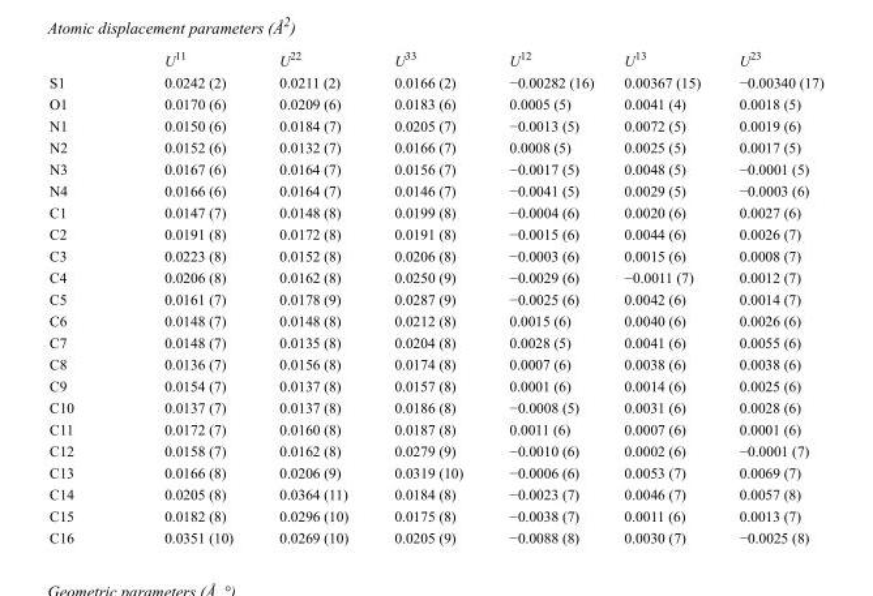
<table><thead><tr><td></td><td>U<sup>11</sup></td><td>U<sup>22</sup></td><td>U<sup>33</sup></td><td>U<sup>12</sup></td><td>U<sup>13</sup></td><td>U<sup>23</sup></td></tr></thead><tbody><tr><td>S1</td><td>0.0242 (2)</td><td>0.0211 (2)</td><td>0.0166 (2)</td><td>−0.00282 (16)</td><td>0.00367 (15)</td><td>−0.00340 (17)</td></tr><tr><td>O1</td><td>0.0170 (6)</td><td>0.0209 (6)</td><td>0.0183 (6)</td><td>0.0005 (5)</td><td>0.0041 (4)</td><td>0.0018 (5)</td></tr><tr><td>N1</td><td>0.0150 (6)</td><td>0.0184 (7)</td><td>0.0205 (7)</td><td>−0.0013 (5)</td><td>0.0072 (5)</td><td>0.0019 (6)</td></tr><tr><td>N2</td><td>0.0152 (6)</td><td>0.0132 (7)</td><td>0.0166 (7)</td><td>0.0008 (5)</td><td>0.0025 (5)</td><td>0.0017 (5)</td></tr><tr><td>N3</td><td>0.0167 (6)</td><td>0.0164 (7)</td><td>0.0156 (7)</td><td>−0.0017 (5)</td><td>0.0048 (5)</td><td>−0.0001 (5)</td></tr><tr><td>N4</td><td>0.0166 (6)</td><td>0.0164 (7)</td><td>0.0146 (7)</td><td>−0.0041 (5)</td><td>0.0029 (5)</td><td>−0.0003 (6)</td></tr><tr><td>C1</td><td>0.0147 (7)</td><td>0.0148 (8)</td><td>0.0199 (8)</td><td>−0.0004 (6)</td><td>0.0020 (6)</td><td>0.0027 (6)</td></tr><tr><td>C2</td><td>0.0191 (8)</td><td>0.0172 (8)</td><td>0.0191 (8)</td><td>−0.0015 (6)</td><td>0.0044 (6)</td><td>0.0026 (7)</td></tr><tr><td>C3</td><td>0.0223 (8)</td><td>0.0152 (8)</td><td>0.0206 (8)</td><td>−0.0003 (6)</td><td>0.0015 (6)</td><td>0.0008 (7)</td></tr><tr><td>C4</td><td>0.0206 (8)</td><td>0.0162 (8)</td><td>0.0250 (9)</td><td>−0.0029 (6)</td><td>−0.0011 (7)</td><td>0.0012 (7)</td></tr><tr><td>C5</td><td>0.0161 (7)</td><td>0.0178 (9)</td><td>0.0287 (9)</td><td>−0.0025 (6)</td><td>0.0042 (6)</td><td>0.0014 (7)</td></tr><tr><td>C6</td><td>0.0148 (7)</td><td>0.0148 (8)</td><td>0.0212 (8)</td><td>0.0015 (6)</td><td>0.0040 (6)</td><td>0.0026 (6)</td></tr><tr><td>C7</td><td>0.0148 (7)</td><td>0.0135 (8)</td><td>0.0204 (8)</td><td>0.0028 (5)</td><td>0.0041 (6)</td><td>0.0055 (6)</td></tr><tr><td>C8</td><td>0.0136 (7)</td><td>0.0156 (8)</td><td>0.0174 (8)</td><td>0.0007 (6)</td><td>0.0038 (6)</td><td>0.0038 (6)</td></tr><tr><td>C9</td><td>0.0154 (7)</td><td>0.0137 (8)</td><td>0.0157 (8)</td><td>0.0001 (6)</td><td>0.0014 (6)</td><td>0.0025 (6)</td></tr><tr><td>C10</td><td>0.0137 (7)</td><td>0.0137 (8)</td><td>0.0186 (8)</td><td>−0.0008 (5)</td><td>0.0031 (6)</td><td>0.0028 (6)</td></tr><tr><td>C11</td><td>0.0172 (7)</td><td>0.0160 (8)</td><td>0.0187 (8)</td><td>0.0011 (6)</td><td>0.0007 (6)</td><td>0.0001 (6)</td></tr><tr><td>C12</td><td>0.0158 (7)</td><td>0.0162 (8)</td><td>0.0279 (9)</td><td>−0.0010 (6)</td><td>0.0002 (6)</td><td>−0.0001 (7)</td></tr><tr><td>C13</td><td>0.0166 (8)</td><td>0.0206 (9)</td><td>0.0319 (10)</td><td>−0.0006 (6)</td><td>0.0053 (7)</td><td>0.0069 (7)</td></tr><tr><td>C14</td><td>0.0205 (8)</td><td>0.0364 (11)</td><td>0.0184 (8)</td><td>−0.0023 (7)</td><td>0.0046 (7)</td><td>0.0057 (8)</td></tr><tr><td>C15</td><td>0.0182 (8)</td><td>0.0296 (10)</td><td>0.0175 (8)</td><td>−0.0038 (7)</td><td>0.0011 (6)</td><td>0.0013 (7)</td></tr><tr><td>C16</td><td>0.0351 (10)</td><td>0.0269 (10)</td><td>0.0205 (9)</td><td>−0.0088 (8)</td><td>0.0030 (7)</td><td>−0.0025 (8)</td></tr></tbody></table>